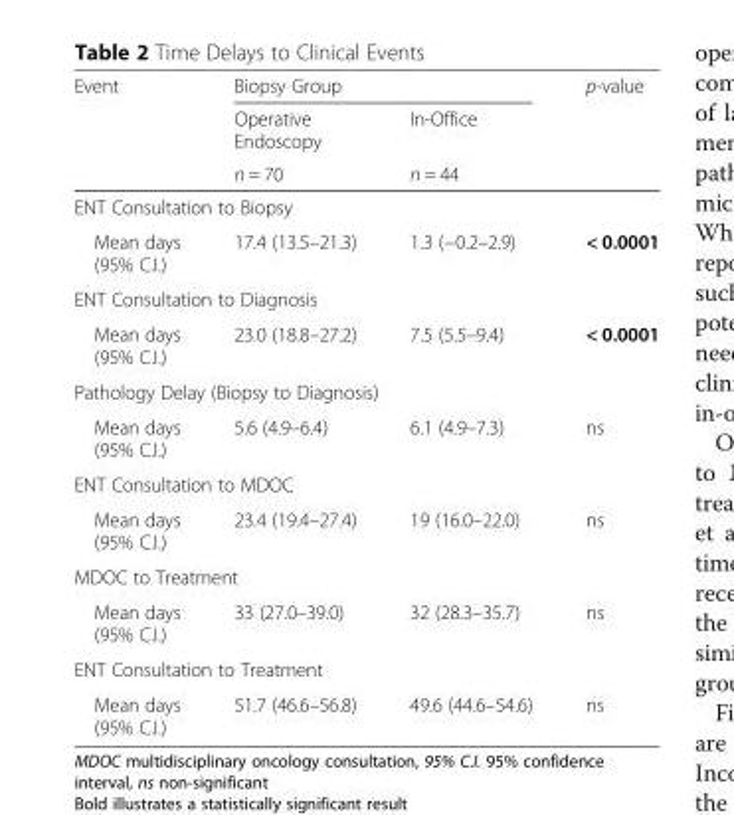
<table><thead><tr><td rowspan="3">Event</td><td colspan="2">Biopsy Group</td><td rowspan="3">p-value</td></tr><tr><td rowspan="2">Operative Endoscopy n = 70</td><td rowspan="2">In-Office n = 44</td></tr><tr></tr></thead><tbody><tr><td colspan="4">ENT Consultation to Biopsy</td></tr><tr><td>Mean days (95% C.I.)</td><td>17.4 (13.5–21.3)</td><td>1.3 (−0.2–2.9)</td><td>&lt; 0.0001</td></tr><tr><td colspan="4">ENT Consultation to Diagnosis</td></tr><tr><td>Mean days (95% C.I.)</td><td>23.0 (18.8–27.2)</td><td>7.5 (5.5–9.4)</td><td>&lt; 0.0001</td></tr><tr><td colspan="4">Pathology Delay (Biopsy to Diagnosis)</td></tr><tr><td>Mean days (95% C.I.)</td><td>5.6 (4.9–6.4)</td><td>6.1 (4.9–7.3)</td><td>ns</td></tr><tr><td colspan="4">ENT Consultation to MDOC</td></tr><tr><td>Mean days (95% C.I.)</td><td>23.4 (19.4–27.4)</td><td>19 (16.0–22.0)</td><td>ns</td></tr><tr><td colspan="4">MDOC to Treatment</td></tr><tr><td>Mean days (95% C.I.)</td><td>33 (27.0–39.0)</td><td>32 (28.3–35.7)</td><td>ns</td></tr><tr><td colspan="4">ENT Consultation to Treatment</td></tr><tr><td>Mean days (95% C.I.)</td><td>51.7 (46.6–56.8)</td><td>49.6 (44.6–54.6)</td><td>ns</td></tr></tbody></table>